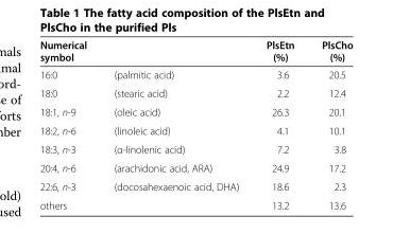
<table><thead><tr><td>Numerical symbol</td><td></td><td>PlsEtn (%)</td><td>PlsCho (%)</td></tr></thead><tbody><tr><td>16:0</td><td>(palmitic acid)</td><td>3.6</td><td>20.5</td></tr><tr><td>18:0</td><td>(stearic acid)</td><td>2.2</td><td>12.4</td></tr><tr><td>18:1, n-9</td><td>(oleic acid)</td><td>26.3</td><td>20.1</td></tr><tr><td>18:2, n-6</td><td>(linoleic acid)</td><td>4.1</td><td>10.1</td></tr><tr><td>18:3, n-3</td><td>(α-linolenic acid)</td><td>7.2</td><td>3.8</td></tr><tr><td>20:4, n-6</td><td>(arachidonic acid, ARA)</td><td>24.9</td><td>17.2</td></tr><tr><td>22:6, n-3</td><td>(docosahexaenoic acid, DHA)</td><td>18.6</td><td>2.3</td></tr><tr><td>others</td><td></td><td>13.2</td><td>13.6</td></tr></tbody></table>